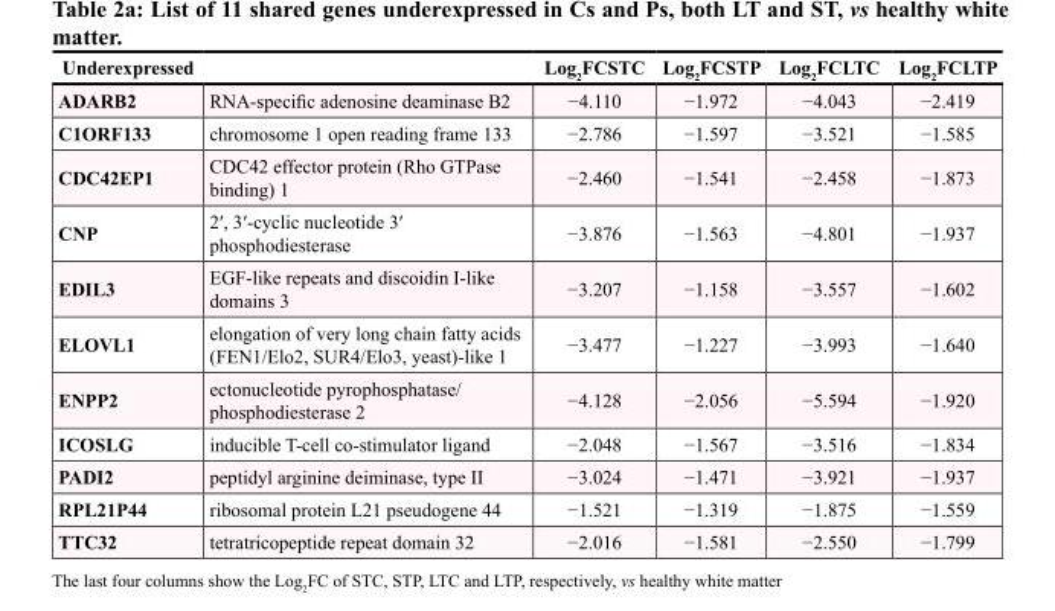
<table><thead><tr><td colspan="2">Underexpressed</td><td rowspan="2">Log<sub>2</sub>FCSTC −4.110</td><td rowspan="2">Log<sub>2</sub>FCSTP −1.972</td><td rowspan="2">Log<sub>2</sub>FCLTC −4.043</td><td rowspan="2">Log<sub>2</sub>FCLTP −2.419</td></tr><tr><td>ADARB2</td><td>RNA-specific adenosine deaminase B2</td></tr></thead><tbody><tr><td>C1ORF133</td><td>chromosome 1 open reading frame 133</td><td>−2.786</td><td>−1.597</td><td>−3.521</td><td>−1.585</td></tr><tr><td>CDC42EP1</td><td>CDC42 effector protein (Rho GTPase binding) 1</td><td>−2.460</td><td>−1.541</td><td>−2.458</td><td>−1.873</td></tr><tr><td>CNP</td><td>2′, 3′-cyclic nucleotide 3′ phosphodiesterase</td><td>−3.876</td><td>−1.563</td><td>−4.801</td><td>−1.937</td></tr><tr><td>EDIL3</td><td>EGF-like repeats and discoidin I-like domains 3</td><td>−3.207</td><td>−1.158</td><td>−3.557</td><td>−1.602</td></tr><tr><td>ELOVL1</td><td>elongation of very long chain fatty acids (FEN1/Elo2, SUR4/Elo3, yeast)-like 1</td><td>−3.477</td><td>−1.227</td><td>−3.993</td><td>−1.640</td></tr><tr><td>ENPP2</td><td>ectonucleotide pyrophosphatase/ phosphodiesterase 2</td><td>−4.128</td><td>−2.056</td><td>−5.594</td><td>−1.920</td></tr><tr><td>ICOSLG</td><td>inducible T-cell co-stimulator ligand</td><td>−2.048</td><td>−1.567</td><td>−3.516</td><td>−1.834</td></tr><tr><td>PADI2</td><td>peptidyl arginine deiminase, type II</td><td>−3.024</td><td>−1.471</td><td>−3.921</td><td>−1.937</td></tr><tr><td>RPL21P44</td><td>ribosomal protein L21 pseudogene 44</td><td>−1.521</td><td>−1.319</td><td>−1.875</td><td>−1.559</td></tr><tr><td>TTC32</td><td>tetratricopeptide repeat domain 32</td><td>−2.016</td><td>−1.581</td><td>−2.550</td><td>−1.799</td></tr></tbody></table>